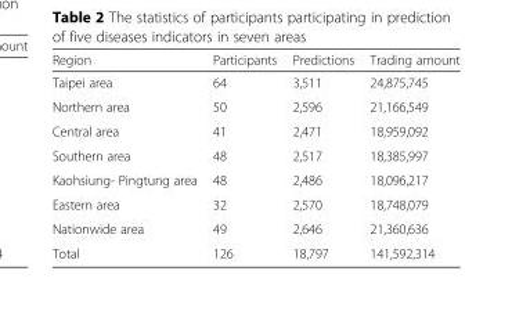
<table><thead><tr><td>Region</td><td>Participants</td><td>Predictions</td><td>Trading amount</td></tr></thead><tbody><tr><td>Taipei area</td><td>64</td><td>3,511</td><td>24,875,745</td></tr><tr><td>Northern area</td><td>50</td><td>2,596</td><td>21,166,549</td></tr><tr><td>Central area</td><td>41</td><td>2,471</td><td>18,959,092</td></tr><tr><td>Southern area</td><td>48</td><td>2,517</td><td>18,385,997</td></tr><tr><td>Kaohsiung- Pingtung area</td><td>48</td><td>2,486</td><td>18,096,217</td></tr><tr><td>Eastern area</td><td>32</td><td>2,570</td><td>18,748,079</td></tr><tr><td>Nationwide area</td><td>49</td><td>2,646</td><td>21,360,636</td></tr><tr><td>Total</td><td>126</td><td>18,797</td><td>141,592,314</td></tr></tbody></table>